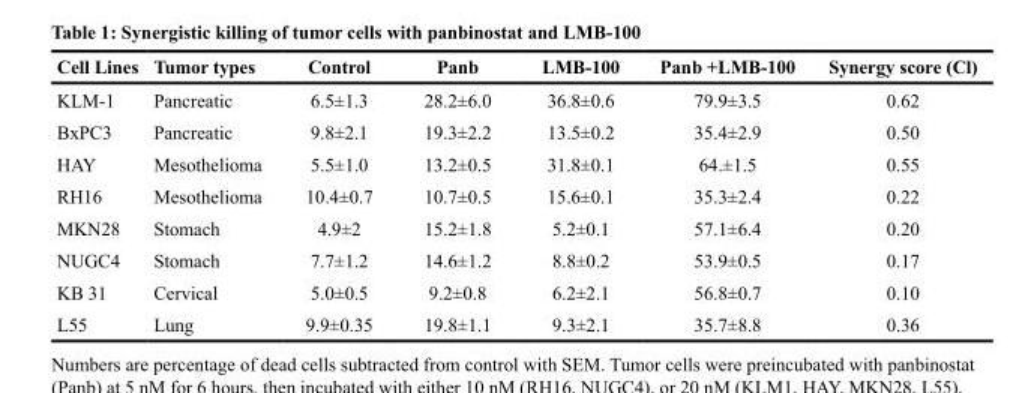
<table><thead><tr><td>Cell Lines</td><td>Tumor types</td><td>Control</td><td>Panb</td><td>LMB-100</td><td>Panb +LMB-100</td><td>Synergy score (Cl)</td></tr></thead><tbody><tr><td>KLM-1</td><td>Pancreatic</td><td>6.5±1.3</td><td>28.2±6.0</td><td>36.8±0.6</td><td>79.9±3.5</td><td>0.62</td></tr><tr><td>BxPC3</td><td>Pancreatic</td><td>9.8±2.1</td><td>19.3±2.2</td><td>13.5±0.2</td><td>35.4±2.9</td><td>0.50</td></tr><tr><td>HAY</td><td>Mesothelioma</td><td>5.5±1.0</td><td>13.2±0.5</td><td>31.8±0.1</td><td>64.±1.5</td><td>0.55</td></tr><tr><td>RH16</td><td>Mesothelioma</td><td>10.4±0.7</td><td>10.7±0.5</td><td>15.6±0.1</td><td>35.3±2.4</td><td>0.22</td></tr><tr><td>MKN28</td><td>Stomach</td><td>4.9±2</td><td>15.2±1.8</td><td>5.2±0.1</td><td>57.1±6.4</td><td>0.20</td></tr><tr><td>NUGC4</td><td>Stomach</td><td>7.7±1.2</td><td>14.6±1.2</td><td>8.8±0.2</td><td>53.9±0.5</td><td>0.17</td></tr><tr><td>KB 31</td><td>Cervical</td><td>5.0±0.5</td><td>9.2±0.8</td><td>6.2±2.1</td><td>56.8±0.7</td><td>0.10</td></tr><tr><td>L55</td><td>Lung</td><td>9.9±0.35</td><td>19.8±1.1</td><td>9.3±2.1</td><td>35.7±8.8</td><td>0.36</td></tr></tbody></table>